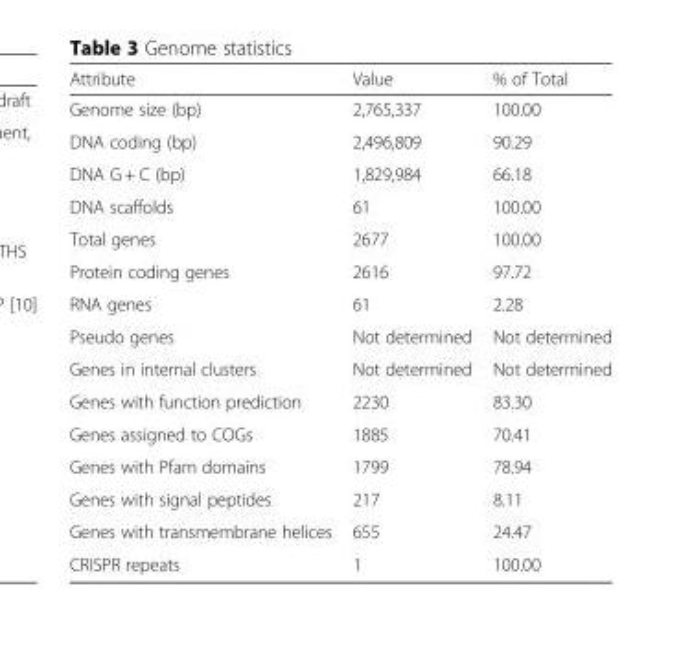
<table><thead><tr><td>Attribute</td><td>Value</td><td>% of Total</td></tr></thead><tbody><tr><td>Genome size (bp)</td><td>2,765,337</td><td>100.00</td></tr><tr><td>DNA coding (bp)</td><td>2,496,809</td><td>90.29</td></tr><tr><td>DNA G + C (bp)</td><td>1,829,984</td><td>66.18</td></tr><tr><td>DNA scaffolds</td><td>61</td><td>100.00</td></tr><tr><td>Total genes</td><td>2677</td><td>100.00</td></tr><tr><td>Protein coding genes</td><td>2616</td><td>97.72</td></tr><tr><td>RNA genes</td><td>61</td><td>2.28</td></tr><tr><td>Pseudo genes</td><td>Not determined</td><td>Not determined</td></tr><tr><td>Genes in internal clusters</td><td>Not determined</td><td>Not determined</td></tr><tr><td>Genes with function prediction</td><td>2230</td><td>83.30</td></tr><tr><td>Genes assigned to COGs</td><td>1885</td><td>70.41</td></tr><tr><td>Genes with Pfam domains</td><td>1799</td><td>78.94</td></tr><tr><td>Genes with signal peptides</td><td>217</td><td>8.11</td></tr><tr><td>Genes with transmembrane helices</td><td>655</td><td>24.47</td></tr><tr><td>CRISPR repeats</td><td>1</td><td>100.00</td></tr></tbody></table>